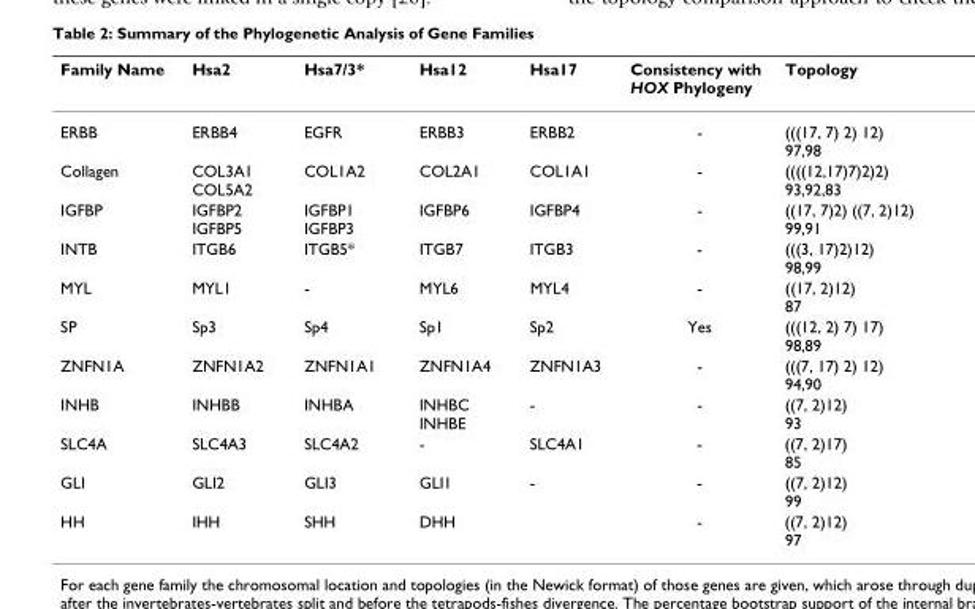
<table><thead><tr><td>Family Name</td><td>Hsa2</td><td>Hsa7/3*</td><td>Hsa12</td><td>Hsa17</td><td>Consistency with HOX Phylogeny</td><td>Topology</td></tr></thead><tbody><tr><td>ERBB</td><td>ERBB4</td><td>EGFR</td><td>ERBB3</td><td>ERBB2</td><td>-</td><td>(((17, 7) 2) 12) 97,98</td></tr><tr><td>Collagen</td><td>COL3A1 COL5A2</td><td>COL1A2</td><td>COL2A1</td><td>COL1A1</td><td>-</td><td>((((12,17)7)2)2) 93,92,83</td></tr><tr><td>IGFBP</td><td>IGFBP2 IGFBP5</td><td>IGFBP1 IGFBP3</td><td>IGFBP6</td><td>IGFBP4</td><td>-</td><td>((17, 7)2) ((7, 2)12) 99,91</td></tr><tr><td>INTB</td><td>ITGB6</td><td>ITGB5*</td><td>ITGB7</td><td>ITGB3</td><td>-</td><td>(((3, 17)2)12) 98,99</td></tr><tr><td>MYL</td><td>MYL1</td><td>-</td><td>MYL6</td><td>MYL4</td><td>-</td><td>((17, 2)12) 87</td></tr><tr><td>SP</td><td>Sp3</td><td>Sp4</td><td>Sp1</td><td>Sp2</td><td>Yes</td><td>(((12, 2) 7) 17) 98,89</td></tr><tr><td>ZNFN1A</td><td>ZNFN1A2</td><td>ZNFN1A1</td><td>ZNFN1A4</td><td>ZNFN1A3</td><td>-</td><td>(((7, 17) 2) 12) 94,90</td></tr><tr><td>INHB</td><td>INHBB</td><td>INHBA</td><td>INHBC INHBE</td><td>-</td><td>-</td><td>((7, 2)12) 93</td></tr><tr><td>SLC4A</td><td>SLC4A3</td><td>SLC4A2</td><td>-</td><td>SLC4A1</td><td>-</td><td>((7, 2)17) 85</td></tr><tr><td>GLI</td><td>GLI2</td><td>GLI3</td><td>GLI1</td><td>-</td><td>-</td><td>((7, 2)12) 99</td></tr><tr><td>HH</td><td>IHH</td><td>SHH</td><td>DHH</td><td></td><td>-</td><td>((7, 2)12) 97</td></tr></tbody></table>